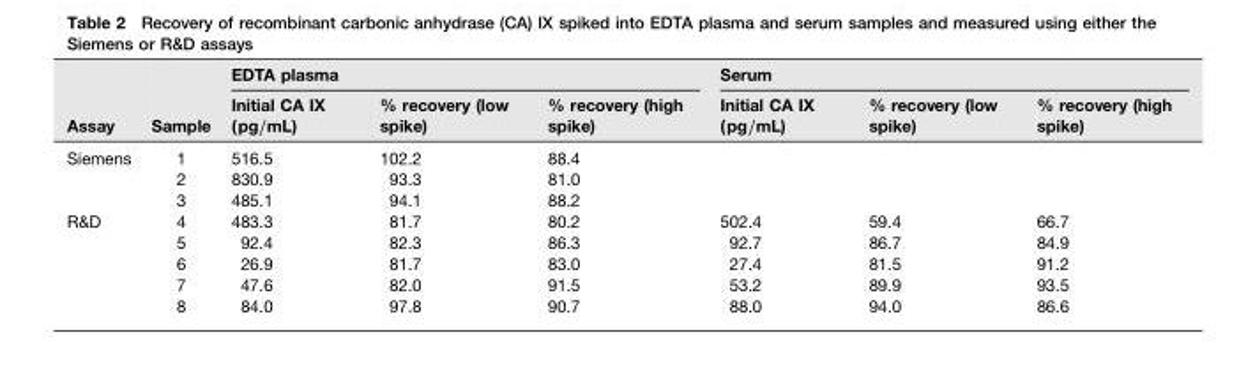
<table><thead><tr><td rowspan="2">Assay</td><td rowspan="2">Sample</td><td colspan="3">EDTA plasma</td><td colspan="3">Serum</td></tr><tr><td>Initial CA IX (pg/mL)</td><td>% recovery (low spike)</td><td>% recovery (high spike)</td><td>Initial CA IX (pg/mL)</td><td>% recovery (low spike)</td><td>% recovery (high spike)</td></tr></thead><tbody><tr><td rowspan="3">Siemens</td><td>1</td><td>516.5</td><td>102.2</td><td>88.4</td><td></td><td></td><td></td></tr><tr><td>2</td><td>830.9</td><td>93.3</td><td>81.0</td><td></td><td></td><td></td></tr><tr><td>3</td><td>485.1</td><td>94.1</td><td>88.2</td><td></td><td></td><td></td></tr><tr><td rowspan="5">R&amp;D</td><td>4</td><td>483.3</td><td>81.7</td><td>80.2</td><td>502.4</td><td>59.4</td><td>66.7</td></tr><tr><td>5</td><td>92.4</td><td>82.3</td><td>86.3</td><td>92.7</td><td>86.7</td><td>84.9</td></tr><tr><td>6</td><td>26.9</td><td>81.7</td><td>83.0</td><td>27.4</td><td>81.5</td><td>91.2</td></tr><tr><td>7</td><td>47.6</td><td>82.0</td><td>91.5</td><td>53.2</td><td>89.9</td><td>93.5</td></tr><tr><td>8</td><td>84.0</td><td>97.8</td><td>90.7</td><td>88.0</td><td>94.0</td><td>86.6</td></tr></tbody></table>